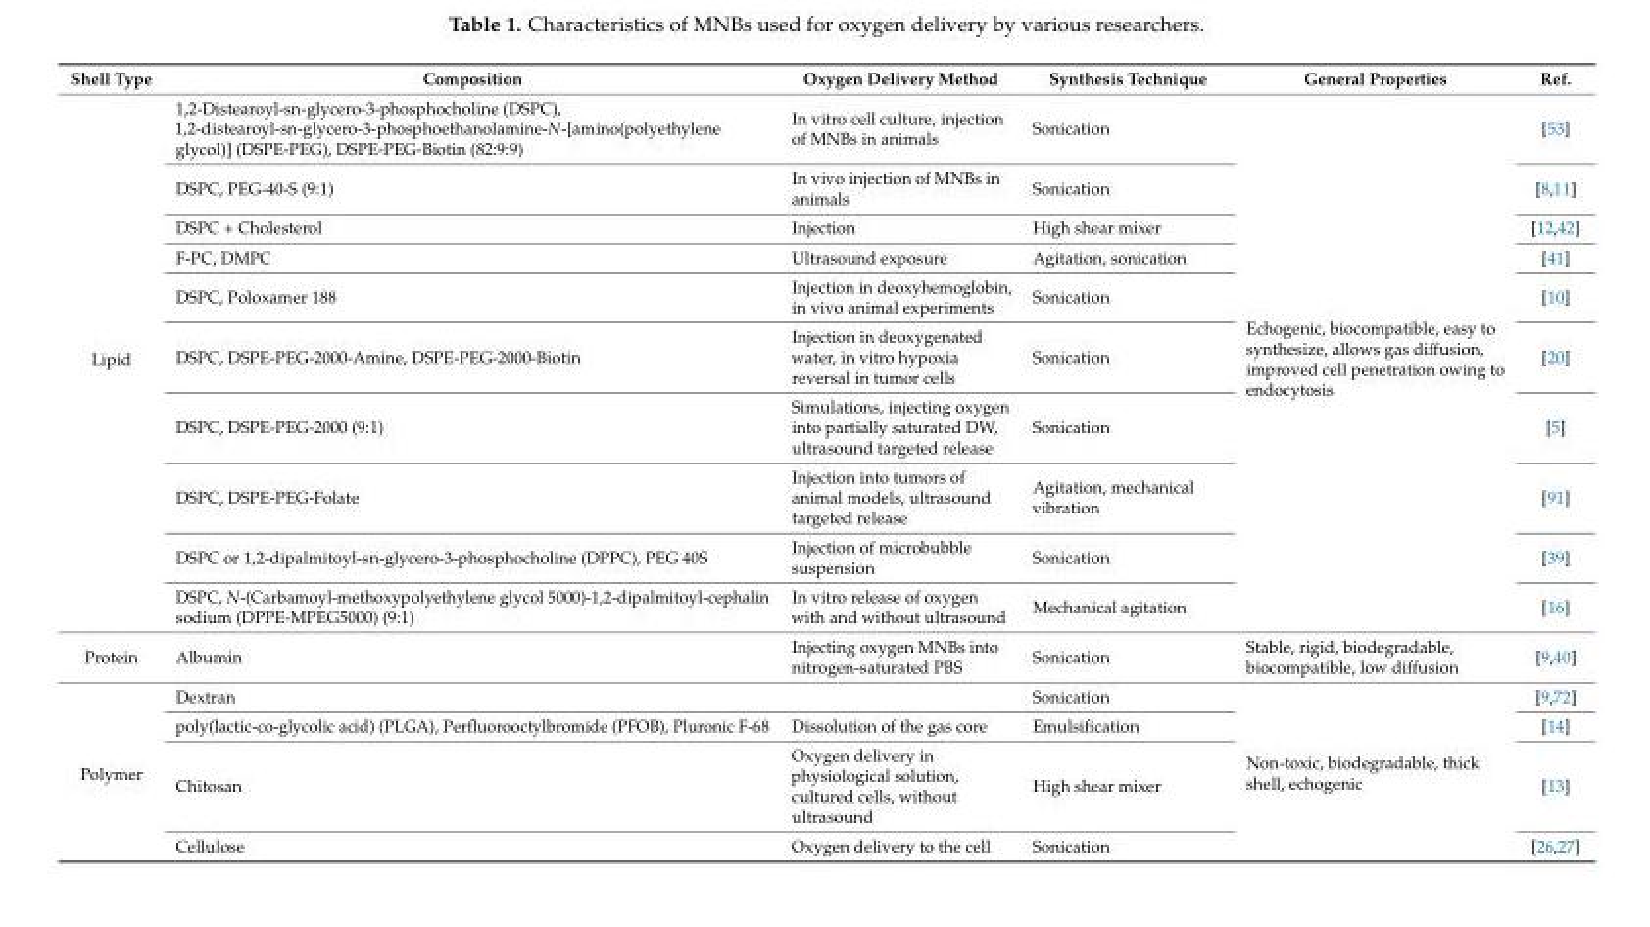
<table><thead><tr><td>Shell Type</td><td>Composition</td><td>Oxygen Delivery Method</td><td>Synthesis Technique</td><td>General Properties</td><td>Ref.</td></tr></thead><tbody><tr><td rowspan="10">Lipid</td><td>1,2-Distearoyl-sn-glycero-3-phosphocholine (DSPC), 1,2-distearoyl-sn-glycero-3-phosphoethanolamine-N-[amino(polyethylene glycol)] (DSPE-PEG), DSPE-PEG-Biotin (82:9:9)</td><td>In vitro cell culture, injection of MNBs in animals</td><td>Sonication</td><td rowspan="10">Echogenic, biocompatible, easy to synthesize, allows gas diffusion, improved cell penetration owing to endocytosis</td><td>[53]</td></tr><tr><td>DSPC, PEG-40-S (9:1)</td><td>In vivo injection of MNBs in animals</td><td>Sonication</td><td>[8,11]</td></tr><tr><td>DSPC + Cholesterol</td><td>Injection</td><td>High shear mixer</td><td>[12,42]</td></tr><tr><td>F-PC, DMPC</td><td>Ultrasound exposure</td><td>Agitation, sonication</td><td>[41]</td></tr><tr><td>DSPC, Poloxamer 188</td><td>Injection in deoxyhemoglobin, in vivo animal experiments</td><td>Sonication</td><td>[10]</td></tr><tr><td>DSPC, DSPE-PEG-2000-Amine, DSPE-PEG-2000-Biotin</td><td>Injection in deoxygenated water, in vitro hypoxia reversal in tumor cells</td><td>Sonication</td><td>[20]</td></tr><tr><td>DSPC, DSPE-PEG-2000 (9:1)</td><td>Simulations, injecting oxygen into partially saturated DW, ultrasound targeted release</td><td>Sonication</td><td>[5]</td></tr><tr><td>DSPC, DSPE-PEG-Folate</td><td>Injection into tumors of animal models, ultrasound targeted release</td><td>Agitation, mechanical vibration</td><td>[91]</td></tr><tr><td>DSPC or 1,2-dipalmitoyl-sn-glycero-3-phosphocholine (DPPC), PEG 40S</td><td>Injection of microbubble suspension</td><td>Sonication</td><td>[39]</td></tr><tr><td>DSPC, N-(Carbamoyl-methoxypolyethylene glycol 5000)-1,2-dipalmitoyl-cephalin sodium (DPPE-MPEG5000) (9:1)</td><td>In vitro release of oxygen with and without ultrasound</td><td>Mechanical agitation</td><td>[16]</td></tr><tr><td>Protein</td><td>Albumin</td><td>Injecting oxygen MNBs into nitrogen-saturated PBS</td><td>Sonication</td><td>Stable, rigid, biodegradable, biocompatible, low diffusion</td><td>[9,40]</td></tr><tr><td rowspan="4">Polymer</td><td>Dextran</td><td></td><td>Sonication</td><td rowspan="4">Non-toxic, biodegradable, thick shell, echogenic</td><td>[9,72]</td></tr><tr><td>poly(lactic-co-glycolic acid) (PLGA), Perfluorooctylbromide (PFOB), Pluronic F-68</td><td>Dissolution of the gas core</td><td>Emulsification</td><td>[14]</td></tr><tr><td>Chitosan</td><td>Oxygen delivery in physiological solution, cultured cells, without ultrasound</td><td>High shear mixer</td><td>[13]</td></tr><tr><td>Cellulose</td><td>Oxygen delivery to the cell</td><td>Sonication</td><td>[26,27]</td></tr></tbody></table>